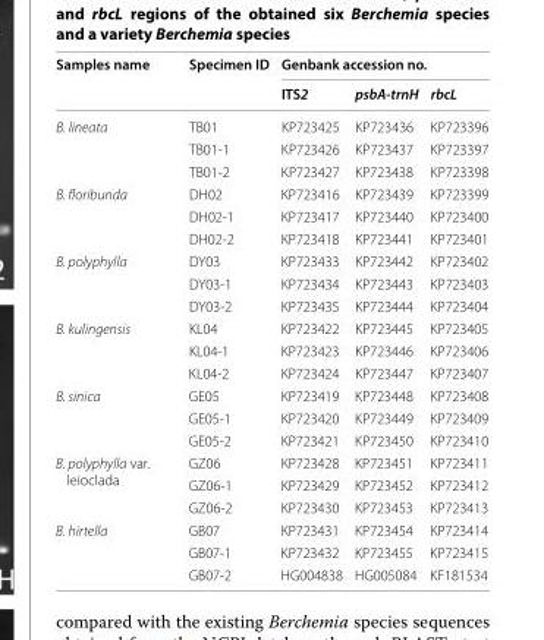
<table><thead><tr><td rowspan="2">Samples name</td><td rowspan="2">Specimen ID</td><td colspan="3">Genbank accession no.</td></tr><tr><td>ITS2</td><td>psbA-trnH</td><td>rbcL</td></tr></thead><tbody><tr><td rowspan="3">B. lineata</td><td>TB01</td><td>KP723425</td><td>KP723436</td><td>KP723396</td></tr><tr><td>TB01‑1</td><td>KP723426</td><td>KP723437</td><td>KP723397</td></tr><tr><td>TB01‑2</td><td>KP723427</td><td>KP723438</td><td>KP723398</td></tr><tr><td rowspan="3">B. floribunda</td><td>DH02</td><td>KP723416</td><td>KP723439</td><td>KP723399</td></tr><tr><td>DH02‑1</td><td>KP723417</td><td>KP723440</td><td>KP723400</td></tr><tr><td>DH02‑2</td><td>KP723418</td><td>KP723441</td><td>KP723401</td></tr><tr><td rowspan="3">B. polyphylla</td><td>DY03</td><td>KP723433</td><td>KP723442</td><td>KP723402</td></tr><tr><td>DY03‑1</td><td>KP723434</td><td>KP723443</td><td>KP723403</td></tr><tr><td>DY03‑2</td><td>KP723435</td><td>KP723444</td><td>KP723404</td></tr><tr><td rowspan="3">B. kulingensis</td><td>KL04</td><td>KP723422</td><td>KP723445</td><td>KP723405</td></tr><tr><td>KL04‑1</td><td>KP723423</td><td>KP723446</td><td>KP723406</td></tr><tr><td>KL04‑2</td><td>KP723424</td><td>KP723447</td><td>KP723407</td></tr><tr><td rowspan="3">B. sinica</td><td>GE05</td><td>KP723419</td><td>KP723448</td><td>KP723408</td></tr><tr><td>GE05‑1</td><td>KP723420</td><td>KP723449</td><td>KP723409</td></tr><tr><td>GE05‑2</td><td>KP723421</td><td>KP723450</td><td>KP723410</td></tr><tr><td rowspan="3">B. polyphylla var. leioclada</td><td>GZ06</td><td>KP723428</td><td>KP723451</td><td>KP723411</td></tr><tr><td>GZ06‑1</td><td>KP723429</td><td>KP723452</td><td>KP723412</td></tr><tr><td>GZ06‑2</td><td>KP723430</td><td>KP723453</td><td>KP723413</td></tr><tr><td rowspan="3">B. hirtella</td><td>GB07</td><td>KP723431</td><td>KP723454</td><td>KP723414</td></tr><tr><td>GB07‑1</td><td>KP723432</td><td>KP723455</td><td>KP723415</td></tr><tr><td>GB07‑2</td><td>HG004838</td><td>HG005084</td><td>KF181534</td></tr></tbody></table>